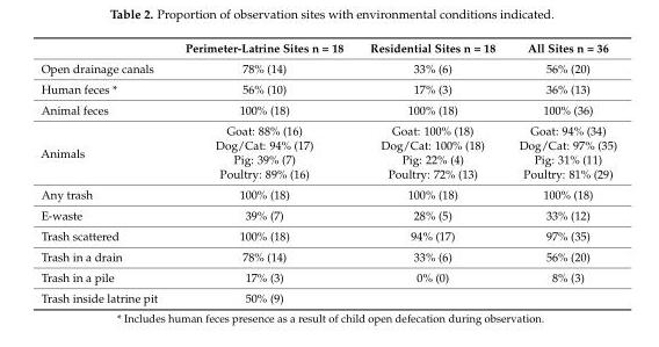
<table><thead><tr><td></td><td>Perimeter-Latrine Sites n = 18</td><td>Residential Sites n = 18</td><td>All Sites n = 36</td></tr></thead><tbody><tr><td>Open drainage canals</td><td>78% (14)</td><td>33% (6)</td><td>56% (20)</td></tr><tr><td>Human feces *</td><td>56% (10)</td><td>17% (3)</td><td>36% (13)</td></tr><tr><td>Animal feces</td><td>100% (18)</td><td>100% (18)</td><td>100% (36)</td></tr><tr><td rowspan="4">Animals</td><td>Goat: 88% (16)</td><td>Goat: 100% (18)</td><td>Goat: 94% (34)</td></tr><tr><td>Dog/Cat: 94% (17)</td><td>Dog/Cat: 100% (18)</td><td>Dog/Cat: 97% (35)</td></tr><tr><td>Pig: 39% (7)</td><td>Pig: 22% (4)</td><td>Pig: 31% (11)</td></tr><tr><td>Poultry: 89% (16)</td><td>Poultry: 72% (13)</td><td>Poultry: 81% (29)</td></tr><tr><td>Any trash</td><td>100% (18)</td><td>100% (18)</td><td>100% (18)</td></tr><tr><td>E-waste</td><td>39% (7)</td><td>28% (5)</td><td>33% (12)</td></tr><tr><td>Trash scattered</td><td>100% (18)</td><td>94% (17)</td><td>97% (35)</td></tr><tr><td>Trash in a drain</td><td>78% (14)</td><td>33% (6)</td><td>56% (20)</td></tr><tr><td>Trash in a pile</td><td>17% (3)</td><td>0% (0)</td><td>8% (3)</td></tr><tr><td>Trash inside latrine pit</td><td>50% (9)</td><td></td><td></td></tr></tbody></table>